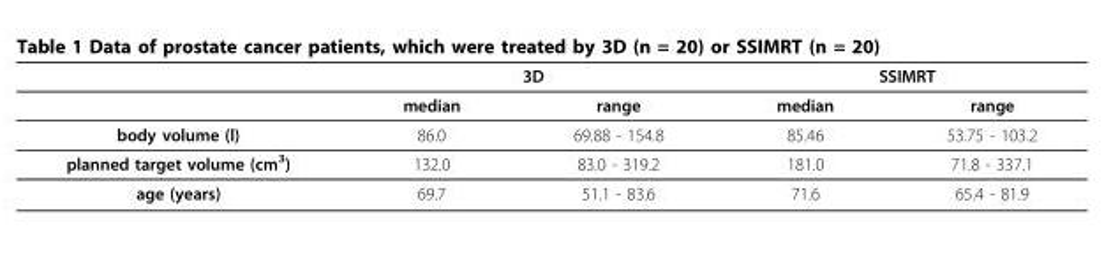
<table><thead><tr><td rowspan="2"></td><td colspan="2">3D</td><td colspan="2">SSIMRT</td></tr><tr><td>median</td><td>range</td><td>median</td><td>range</td></tr></thead><tbody><tr><td>body volume (l)</td><td>86.0</td><td>69.88 - 154.8</td><td>85.46</td><td>53.75 - 103.2</td></tr><tr><td>planned target volume (cm<sup>3</sup>)</td><td>132.0</td><td>83.0 - 319.2</td><td>181.0</td><td>71.8 - 337.1</td></tr><tr><td>age (years)</td><td>69.7</td><td>51.1 - 83.6</td><td>71.6</td><td>65.4 - 81.9</td></tr></tbody></table>